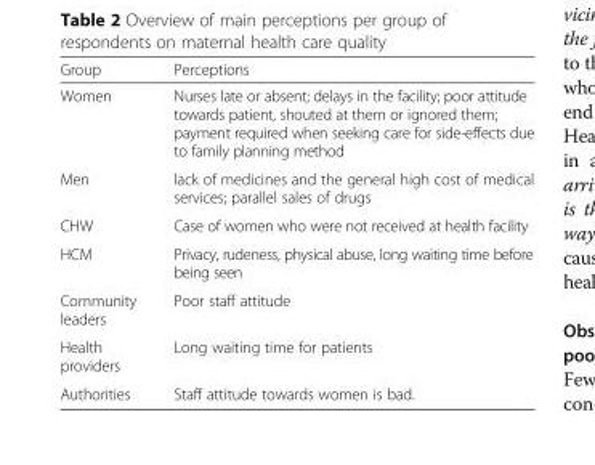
<table><thead><tr><td>Group</td><td>Perceptions</td></tr></thead><tbody><tr><td>Women</td><td>Nurses late or absent; delays in the facility; poor attitude towards patient, shouted at them or ignored them; payment required when seeking care for side-effects due to family planning method</td></tr><tr><td>Men</td><td>lack of medicines and the general high cost of medical services; parallel sales of drugs</td></tr><tr><td>CHW</td><td>Case of women who were not received at health facility</td></tr><tr><td>HCM</td><td>Privacy, rudeness, physical abuse, long waiting time before being seen</td></tr><tr><td>Community leaders</td><td>Poor staff attitude</td></tr><tr><td>Health providers</td><td>Long waiting time for patients</td></tr><tr><td>Authorities</td><td>Staff attitude towards women is bad.</td></tr></tbody></table>